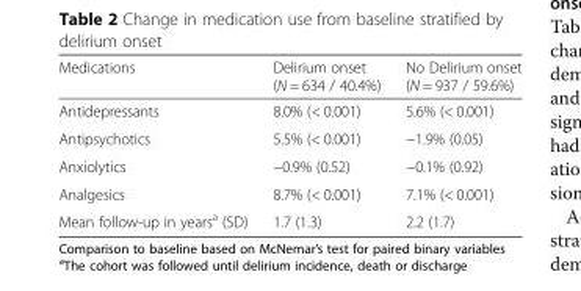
<table><thead><tr><td>Medications</td><td>Delirium onset (N = 634 / 40.4%)</td><td>No Delirium onset (N = 937 / 59.6%)</td></tr></thead><tbody><tr><td>Antidepressants</td><td>8.0% (&lt; 0.001)</td><td>5.6% (&lt; 0.001)</td></tr><tr><td>Antipsychotics</td><td>5.5% (&lt; 0.001)</td><td>−1.9% (0.05)</td></tr><tr><td>Anxiolytics</td><td>−0.9% (0.52)</td><td>−0.1% (0.92)</td></tr><tr><td>Analgesics</td><td>8.7% (&lt; 0.001)</td><td>7.1% (&lt; 0.001)</td></tr><tr><td>Mean follow-up in years<sup>a</sup> (SD)</td><td>1.7 (1.3)</td><td>2.2 (1.7)</td></tr></tbody></table>